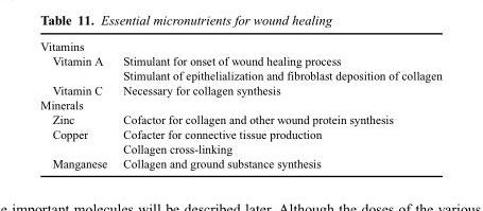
<table><tbody><tr><td colspan="2">Vitamins</td></tr><tr><td rowspan="2">Vitamin A</td><td>Stimulant for onset of wound healing process</td></tr><tr><td>Stimulant of epithelialization and fibroblast deposition of collagen</td></tr><tr><td>Vitamin C</td><td>Necessary for collagen synthesis</td></tr><tr><td colspan="2">Minerals</td></tr><tr><td>Zinc</td><td>Cofactor for collagen and other wound protein synthesis</td></tr><tr><td rowspan="2">Copper</td><td>Cofacter for connective tissue production</td></tr><tr><td>Collagen cross-linking</td></tr><tr><td>Manganese</td><td>Collagen and ground substance synthesis</td></tr></tbody></table>